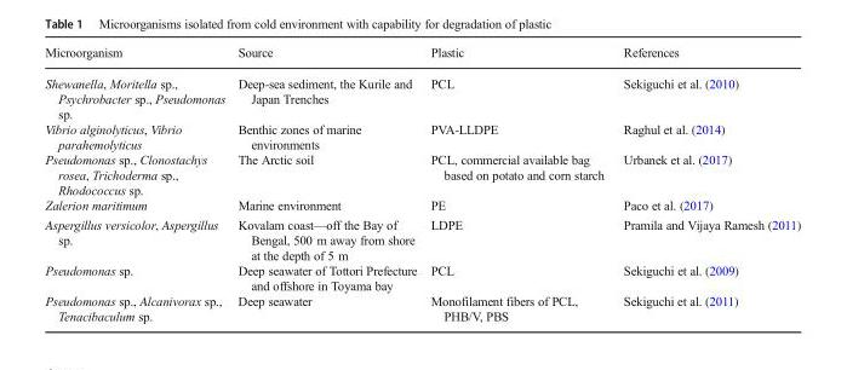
<table><thead><tr><td>Microorganism</td><td>Source</td><td>Plastic</td><td>References</td></tr></thead><tbody><tr><td>Shewanella, Moritella sp., Psychrobacter sp., Pseudomonas sp.</td><td>Deep-sea sediment, the Kurile and Japan Trenches</td><td>PCL</td><td>Sekiguchi et al. (2010)</td></tr><tr><td>Vibrio alginolyticus, Vibrio parahemolyticus</td><td>Benthic zones of marine environments</td><td>PVA-LLDPE</td><td>Raghul et al. (2014)</td></tr><tr><td>Pseudomonas sp., Clonostachys rosea, Trichoderma sp., Rhodococcus sp.</td><td>The Arctic soil</td><td>PCL, commercial available bag based on potato and corn starch</td><td>Urbanek et al. (2017)</td></tr><tr><td>Zalerion maritimum</td><td>Marine environment</td><td>PE</td><td>Paco et al. (2017)</td></tr><tr><td>Aspergillus versicolor, Aspergillus sp.</td><td>Kovalam coast—off the Bay of Bengal, 500 m away from shore at the depth of 5 m</td><td>LDPE</td><td>Pramila and Vijaya Ramesh (2011)</td></tr><tr><td>Pseudomonas sp.</td><td>Deep seawater of Tottori Prefecture and offshore in Toyama bay</td><td>PCL</td><td>Sekiguchi et al. (2009)</td></tr><tr><td>Pseudomonas sp., Alcanivorax sp., Tenacibaculum sp.</td><td>Deep seawater</td><td>Monofilament fibers of PCL, PHB/V, PBS</td><td>Sekiguchi et al. (2011)</td></tr></tbody></table>